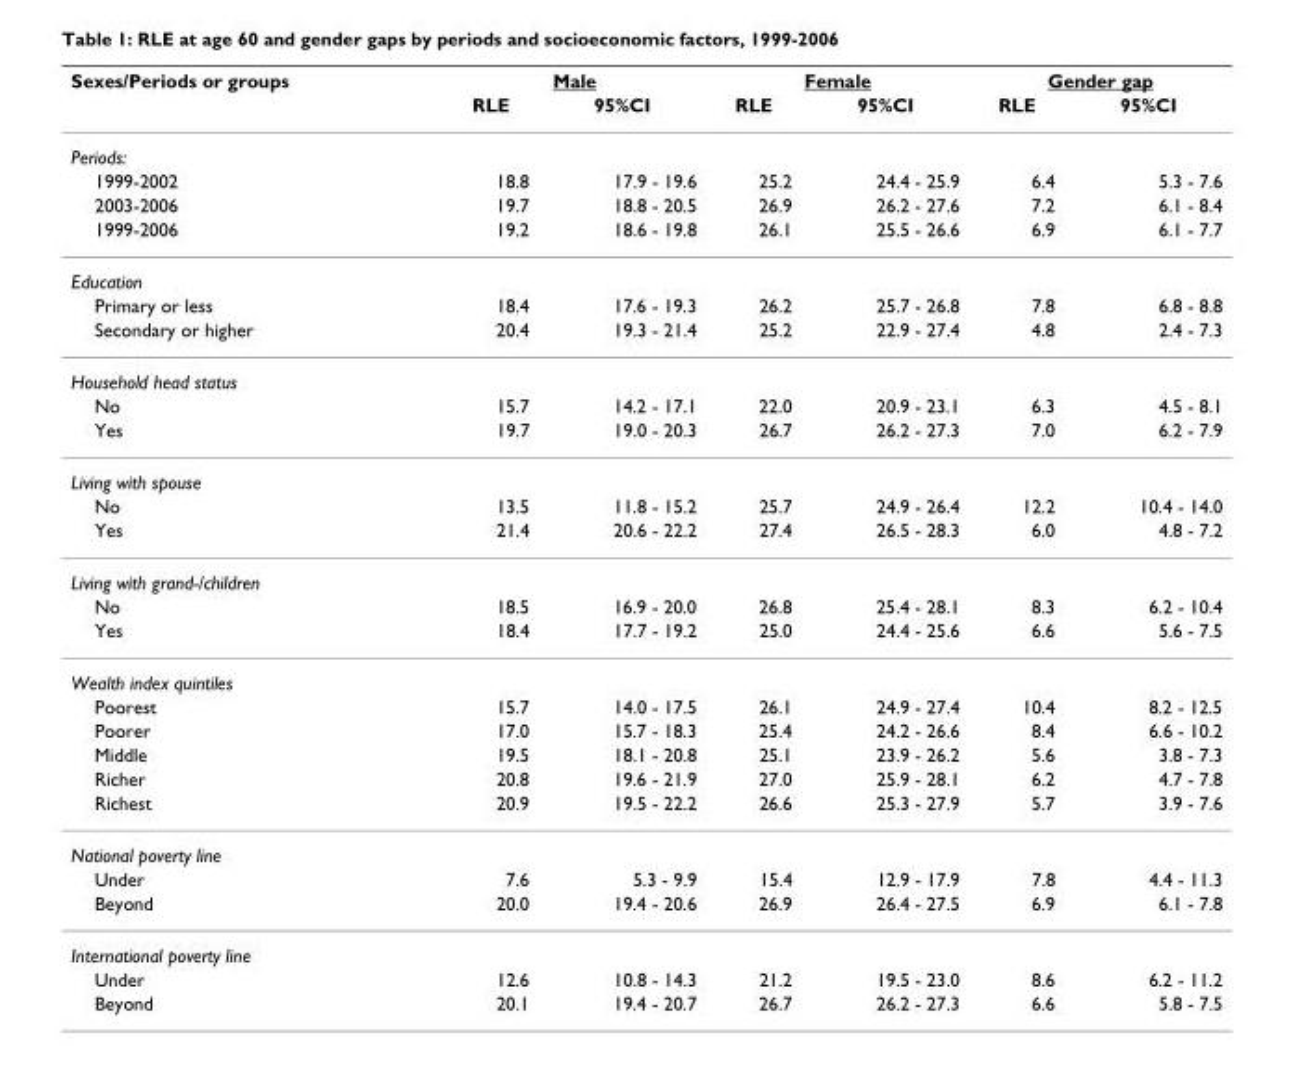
<table><thead><tr><td rowspan="2">Sexes/Periods or groups</td><td colspan="2">Male</td><td colspan="2">Female</td><td colspan="2">Gender gap</td></tr><tr><td>RLE</td><td>95%CI</td><td>RLE</td><td>95%CI</td><td>RLE</td><td>95%CI</td></tr></thead><tbody><tr><td colspan="7">Periods:</td></tr><tr><td>1999-2002</td><td>18.8</td><td>17.9 - 19.6</td><td>25.2</td><td>24.4 - 25.9</td><td>6.4</td><td>5.3 - 7.6</td></tr><tr><td>2003-2006</td><td>19.7</td><td>18.8 - 20.5</td><td>26.9</td><td>26.2 - 27.6</td><td>7.2</td><td>6.1 - 8.4</td></tr><tr><td>1999-2006</td><td>19.2</td><td>18.6 - 19.8</td><td>26.1</td><td>25.5 - 26.6</td><td>6.9</td><td>6.1 - 7.7</td></tr><tr><td colspan="7">Education</td></tr><tr><td>Primary or less</td><td>18.4</td><td>17.6 - 19.3</td><td>26.2</td><td>25.7 - 26.8</td><td>7.8</td><td>6.8 - 8.8</td></tr><tr><td>Secondary or higher</td><td>20.4</td><td>19.3 - 21.4</td><td>25.2</td><td>22.9 - 27.4</td><td>4.8</td><td>2.4 - 7.3</td></tr><tr><td colspan="7">Household head status</td></tr><tr><td>No</td><td>15.7</td><td>14.2 - 17.1</td><td>22.0</td><td>20.9 - 23.1</td><td>6.3</td><td>4.5 - 8.1</td></tr><tr><td>Yes</td><td>19.7</td><td>19.0 - 20.3</td><td>26.7</td><td>26.2 - 27.3</td><td>7.0</td><td>6.2 - 7.9</td></tr><tr><td colspan="7">Living with spouse</td></tr><tr><td>No</td><td>13.5</td><td>11.8 - 15.2</td><td>25.7</td><td>24.9 - 26.4</td><td>12.2</td><td>10.4 - 14.0</td></tr><tr><td>Yes</td><td>21.4</td><td>20.6 - 22.2</td><td>27.4</td><td>26.5 - 28.3</td><td>6.0</td><td>4.8 - 7.2</td></tr><tr><td colspan="7">Living with grand-/children</td></tr><tr><td>No</td><td>18.5</td><td>16.9 - 20.0</td><td>26.8</td><td>25.4 - 28.1</td><td>8.3</td><td>6.2 - 10.4</td></tr><tr><td>Yes</td><td>18.4</td><td>17.7 - 19.2</td><td>25.0</td><td>24.4 - 25.6</td><td>6.6</td><td>5.6 - 7.5</td></tr><tr><td colspan="7">Wealth index quintiles</td></tr><tr><td>Poorest</td><td>15.7</td><td>14.0 - 17.5</td><td>26.1</td><td>24.9 - 27.4</td><td>10.4</td><td>8.2 - 12.5</td></tr><tr><td>Poorer</td><td>17.0</td><td>15.7 - 18.3</td><td>25.4</td><td>24.2 - 26.6</td><td>8.4</td><td>6.6 - 10.2</td></tr><tr><td>Middle</td><td>19.5</td><td>18.1 - 20.8</td><td>25.1</td><td>23.9 - 26.2</td><td>5.6</td><td>3.8 - 7.3</td></tr><tr><td>Richer</td><td>20.8</td><td>19.6 - 21.9</td><td>27.0</td><td>25.9 - 28.1</td><td>6.2</td><td>4.7 - 7.8</td></tr><tr><td>Richest</td><td>20.9</td><td>19.5 - 22.2</td><td>26.6</td><td>25.3 - 27.9</td><td>5.7</td><td>3.9 - 7.6</td></tr><tr><td colspan="7">National poverty line</td></tr><tr><td>Under</td><td>7.6</td><td>5.3 - 9.9</td><td>15.4</td><td>12.9 - 17.9</td><td>7.8</td><td>4.4 - 11.3</td></tr><tr><td>Beyond</td><td>20.0</td><td>19.4 - 20.6</td><td>26.9</td><td>26.4 - 27.5</td><td>6.9</td><td>6.1 - 7.8</td></tr><tr><td colspan="7">International poverty line</td></tr><tr><td>Under</td><td>12.6</td><td>10.8 - 14.3</td><td>21.2</td><td>19.5 - 23.0</td><td>8.6</td><td>6.2 - 11.2</td></tr><tr><td>Beyond</td><td>20.1</td><td>19.4 - 20.7</td><td>26.7</td><td>26.2 - 27.3</td><td>6.6</td><td>5.8 - 7.5</td></tr></tbody></table>